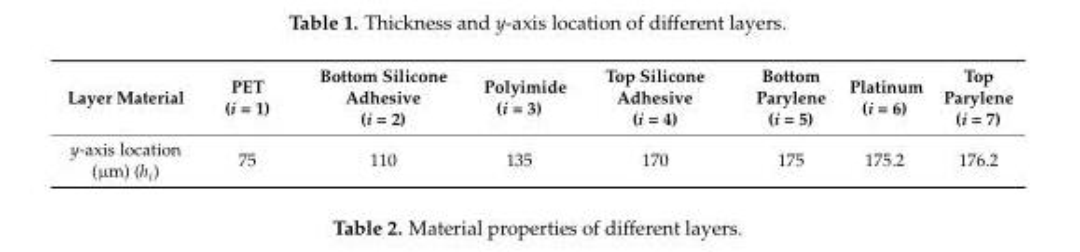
<table><thead><tr><td>Layer Material</td><td>PET (i = 1)</td><td>Bottom Silicone Adhesive (i = 2)</td><td>Polyimide (i = 3)</td><td>Top Silicone Adhesive (i = 4)</td><td>Bottom Parylene (i = 5)</td><td>Platinum (i = 6)</td><td>Top Parylene (i = 7)</td></tr></thead><tbody><tr><td>y-axis location (µm) (h<sub>i</sub>)</td><td>75</td><td>110</td><td>135</td><td>170</td><td>175</td><td>175.2</td><td>176.2</td></tr></tbody></table>